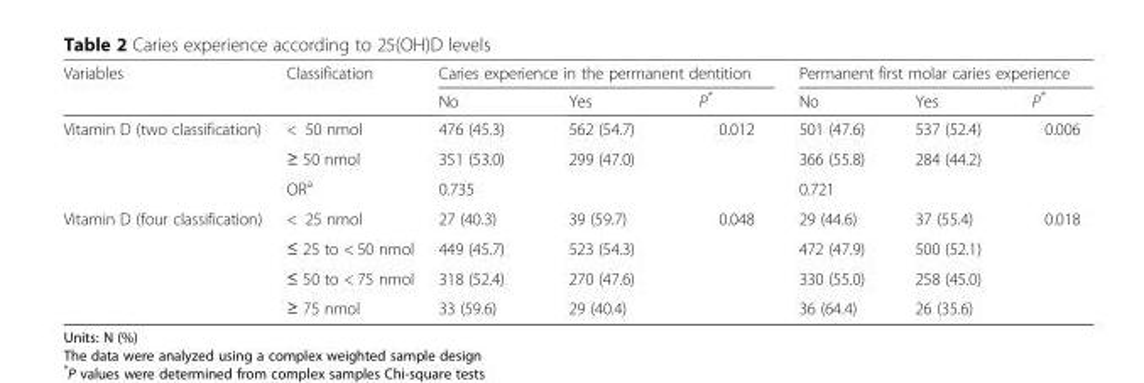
<table><thead><tr><td rowspan="2">Variables</td><td rowspan="2">Classification</td><td colspan="3">Caries experience in the permanent dentition</td><td colspan="3">Permanent first molar caries experience</td></tr><tr><td>No</td><td>Yes</td><td>P*</td><td>No</td><td>Yes</td><td>P*</td></tr></thead><tbody><tr><td rowspan="3">Vitamin D (two classification)</td><td>&lt; 50 nmol</td><td>476 (45.3)</td><td>562 (54.7)</td><td>0.012</td><td>501 (47.6)</td><td>537 (52.4)</td><td>0.006</td></tr><tr><td>≥ 50 nmol</td><td>351 (53.0)</td><td>299 (47.0)</td><td></td><td>366 (55.8)</td><td>284 (44.2)</td><td></td></tr><tr><td>OR<sup>a</sup></td><td>0.735</td><td></td><td></td><td>0.721</td><td></td><td></td></tr><tr><td rowspan="4">Vitamin D (four classification)</td><td>&lt; 25 nmol</td><td>27 (40.3)</td><td>39 (59.7)</td><td>0.048</td><td>29 (44.6)</td><td>37 (55.4)</td><td>0.018</td></tr><tr><td>≤ 25 to &lt; 50 nmol</td><td>449 (45.7)</td><td>523 (54.3)</td><td></td><td>472 (47.9)</td><td>500 (52.1)</td><td></td></tr><tr><td>≤ 50 to &lt; 75 nmol</td><td>318 (52.4)</td><td>270 (47.6)</td><td></td><td>330 (55.0)</td><td>258 (45.0)</td><td></td></tr><tr><td>≥ 75 nmol</td><td>33 (59.6)</td><td>29 (40.4)</td><td></td><td>36 (64.4)</td><td>26 (35.6)</td><td></td></tr></tbody></table>